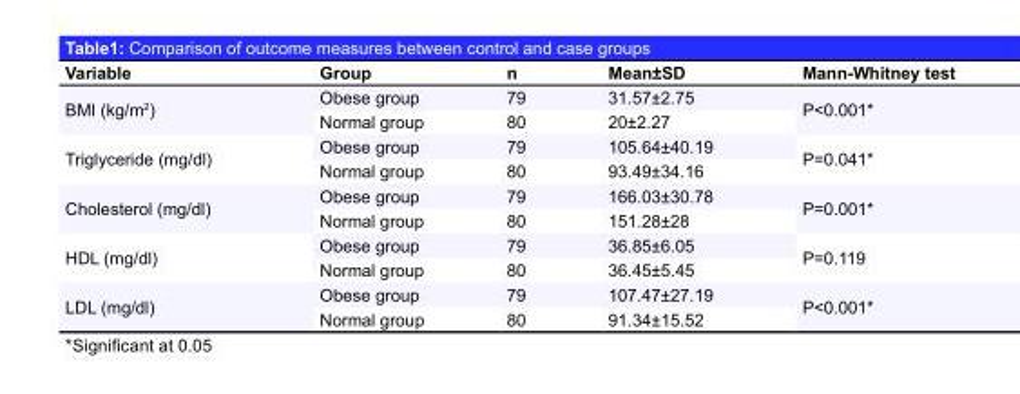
<table><thead><tr><td>Variable</td><td>Group</td><td>n</td><td>Mean±SD</td><td>Mann-Whitney test</td></tr></thead><tbody><tr><td rowspan="2">BMI (kg/m<sup>2</sup>)</td><td>Obese group</td><td>79</td><td>31.57±2.75</td><td rowspan="2">P&lt;0.001*</td></tr><tr><td>Normal group</td><td>80</td><td>20±2.27</td></tr><tr><td rowspan="2">Triglyceride (mg/dl)</td><td>Obese group</td><td>79</td><td>105.64±40.19</td><td rowspan="2">P=0.041*</td></tr><tr><td>Normal group</td><td>80</td><td>93.49±34.16</td></tr><tr><td rowspan="2">Cholesterol (mg/dl)</td><td>Obese group</td><td>79</td><td>166.03±30.78</td><td rowspan="2">P=0.001*</td></tr><tr><td>Normal group</td><td>80</td><td>151.28±28</td></tr><tr><td rowspan="2">HDL (mg/dl)</td><td>Obese group</td><td>79</td><td>36.85±6.05</td><td rowspan="2">P=0.119</td></tr><tr><td>Normal group</td><td>80</td><td>36.45±5.45</td></tr><tr><td rowspan="2">LDL (mg/dl)</td><td>Obese group</td><td>79</td><td>107.47±27.19</td><td rowspan="2">P&lt;0.001*</td></tr><tr><td>Normal group</td><td>80</td><td>91.34±15.52</td></tr></tbody></table>